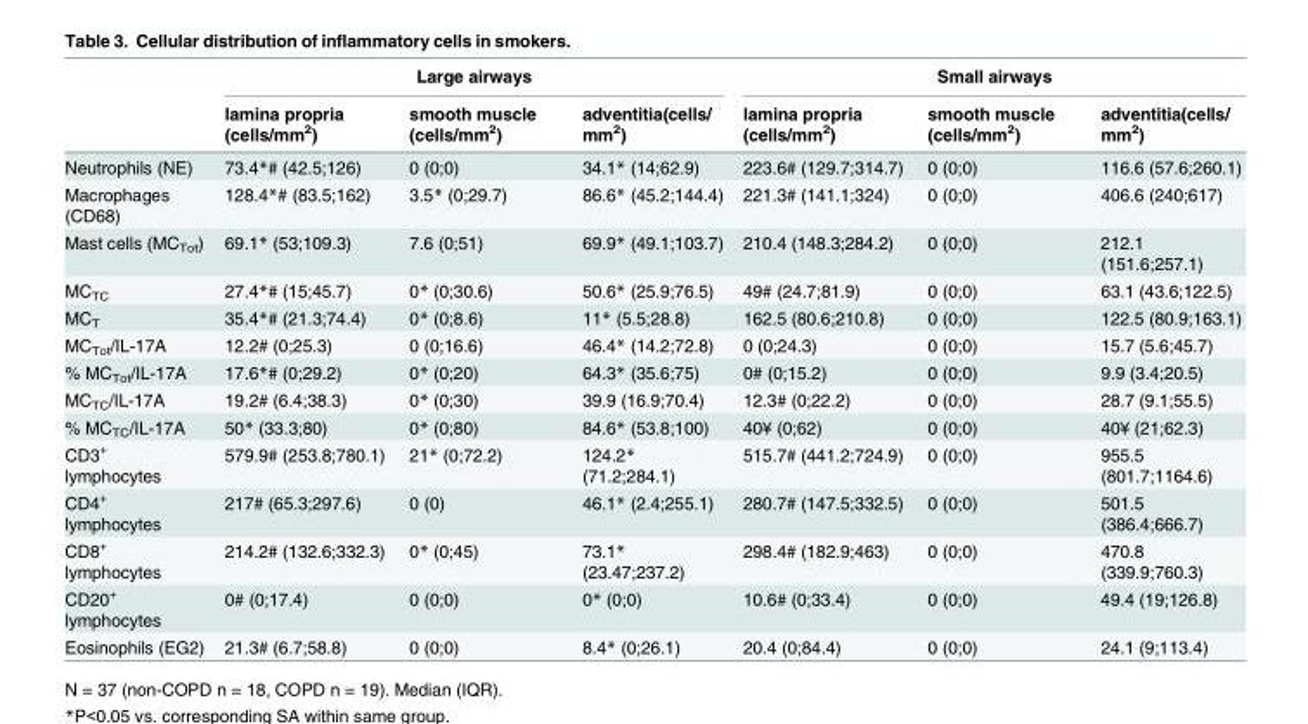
<table><thead><tr><td rowspan="2"></td><td colspan="3">Large airways</td><td colspan="3">Small airways</td></tr><tr><td>lamina propria (cells/mm<sup>2</sup>)</td><td>smooth muscle (cells/mm<sup>2</sup>)</td><td>adventitia(cells/ mm<sup>2</sup>)</td><td>lamina propria (cells/mm<sup>2</sup>)</td><td>smooth muscle (cells/mm<sup>2</sup>)</td><td>adventitia(cells/ mm<sup>2</sup>)</td></tr></thead><tbody><tr><td>Neutrophils (NE)</td><td>73.4*# (42.5;126)</td><td>0 (0;0)</td><td>34.1* (14;62.9)</td><td>223.6# (129.7;314.7)</td><td>0 (0;0)</td><td>116.6 (57.6;260.1)</td></tr><tr><td>Macrophages (CD68)</td><td>128.4*# (83.5;162)</td><td>3.5* (0;29.7)</td><td>86.6* (45.2;144.4)</td><td>221.3# (141.1;324)</td><td>0 (0;0)</td><td>406.6 (240;617)</td></tr><tr><td>Mast cells (MC<sub>Tot</sub>)</td><td>69.1* (53;109.3)</td><td>7.6 (0;51)</td><td>69.9* (49.1;103.7)</td><td>210.4 (148.3;284.2)</td><td>0 (0;0)</td><td>212.1 (151.6;257.1)</td></tr><tr><td>MC<sub>TC</sub></td><td>27.4*# (15;45.7)</td><td>0* (0;30.6)</td><td>50.6* (25.9;76.5)</td><td>49# (24.7;81.9)</td><td>0 (0;0)</td><td>63.1 (43.6;122.5)</td></tr><tr><td>MC<sub>T</sub></td><td>35.4*# (21.3;74.4)</td><td>0* (0;8.6)</td><td>11* (5.5;28.8)</td><td>162.5 (80.6;210.8)</td><td>0 (0;0)</td><td>122.5 (80.9;163.1)</td></tr><tr><td>MC<sub>Tot</sub>/IL-17A</td><td>12.2# (0;25.3)</td><td>0 (0;16.6)</td><td>46.4* (14.2;72.8)</td><td>0 (0;24.3)</td><td>0 (0;0)</td><td>15.7 (5.6;45.7)</td></tr><tr><td>% MC<sub>Tot</sub>/IL-17A</td><td>17.6*# (0;29.2)</td><td>0* (0;20)</td><td>64.3* (35.6;75)</td><td>0# (0;15.2)</td><td>0 (0;0)</td><td>9.9 (3.4;20.5)</td></tr><tr><td>MC<sub>TC</sub>/IL-17A</td><td>19.2# (6.4;38.3)</td><td>0* (0;30)</td><td>39.9 (16.9;70.4)</td><td>12.3# (0;22.2)</td><td>0 (0;0)</td><td>28.7 (9.1;55.5)</td></tr><tr><td>% MC<sub>TC</sub>/IL-17A</td><td>50* (33.3;80)</td><td>0* (0;80)</td><td>84.6* (53.8;100)</td><td>40¥ (0;62)</td><td>0 (0;0)</td><td>40¥ (21;62.3)</td></tr><tr><td>CD3<sup>+</sup> lymphocytes</td><td>579.9# (253.8;780.1)</td><td>21* (0;72.2)</td><td>124.2* (71.2;284.1)</td><td>515.7# (441.2;724.9)</td><td>0 (0;0)</td><td>955.5 (801.7;1164.6)</td></tr><tr><td>CD4<sup>+</sup> lymphocytes</td><td>217# (65.3;297.6)</td><td>0 (0)</td><td>46.1* (2.4;255.1)</td><td>280.7# (147.5;332.5)</td><td>0 (0;0)</td><td>501.5 (386.4;666.7)</td></tr><tr><td>CD8<sup>+</sup> lymphocytes</td><td>214.2# (132.6;332.3)</td><td>0* (0;45)</td><td>73.1* (23.47;237.2)</td><td>298.4# (182.9;463)</td><td>0 (0;0)</td><td>470.8 (339.9;760.3)</td></tr><tr><td>CD20<sup>+</sup> lymphocytes</td><td>0# (0;17.4)</td><td>0 (0;0)</td><td>0* (0;0)</td><td>10.6# (0;33.4)</td><td>0 (0;0)</td><td>49.4 (19;126.8)</td></tr><tr><td>Eosinophils (EG2)</td><td>21.3# (6.7;58.8)</td><td>0 (0;0)</td><td>8.4* (0;26.1)</td><td>20.4 (0;84.4)</td><td>0 (0;0)</td><td>24.1 (9;113.4)</td></tr></tbody></table>